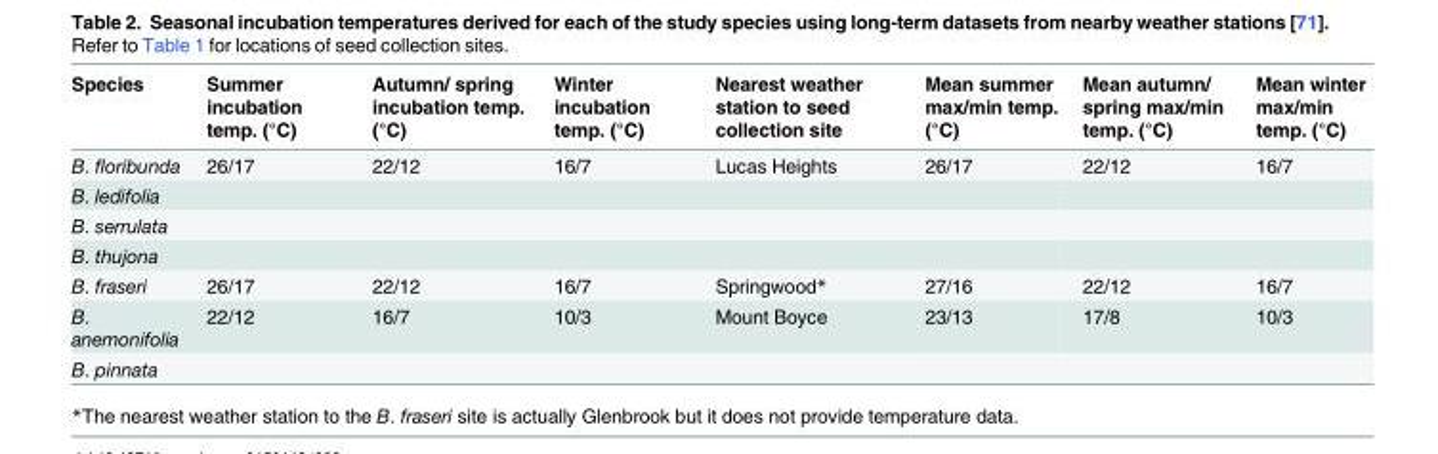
<table><thead><tr><td>Species</td><td>Summer incubation temp. (°C)</td><td>Autumn/ spring incubation temp. (°C)</td><td>Winter incubation temp. (°C)</td><td>Nearest weather station to seed collection site</td><td>Mean summer max/min temp. (°C)</td><td>Mean autumn/ spring max/min temp. (°C)</td><td>Mean winter max/min temp. (°C)</td></tr></thead><tbody><tr><td>B. floribunda</td><td>26/17</td><td>22/12</td><td>16/7</td><td>Lucas Heights</td><td>26/17</td><td>22/12</td><td>16/7</td></tr><tr><td colspan="8">B. ledifolia</td></tr><tr><td colspan="8">B. serrulata</td></tr><tr><td colspan="8">B. thujona</td></tr><tr><td>B. fraseri</td><td>26/17</td><td>22/12</td><td>16/7</td><td>Springwood*</td><td>27/16</td><td>22/12</td><td>16/7</td></tr><tr><td>B. anemonifolia</td><td>22/12</td><td>16/7</td><td>10/3</td><td>Mount Boyce</td><td>23/13</td><td>17/8</td><td>10/3</td></tr><tr><td>B. pinnata</td><td></td><td></td><td></td><td></td><td></td><td></td><td></td></tr></tbody></table>